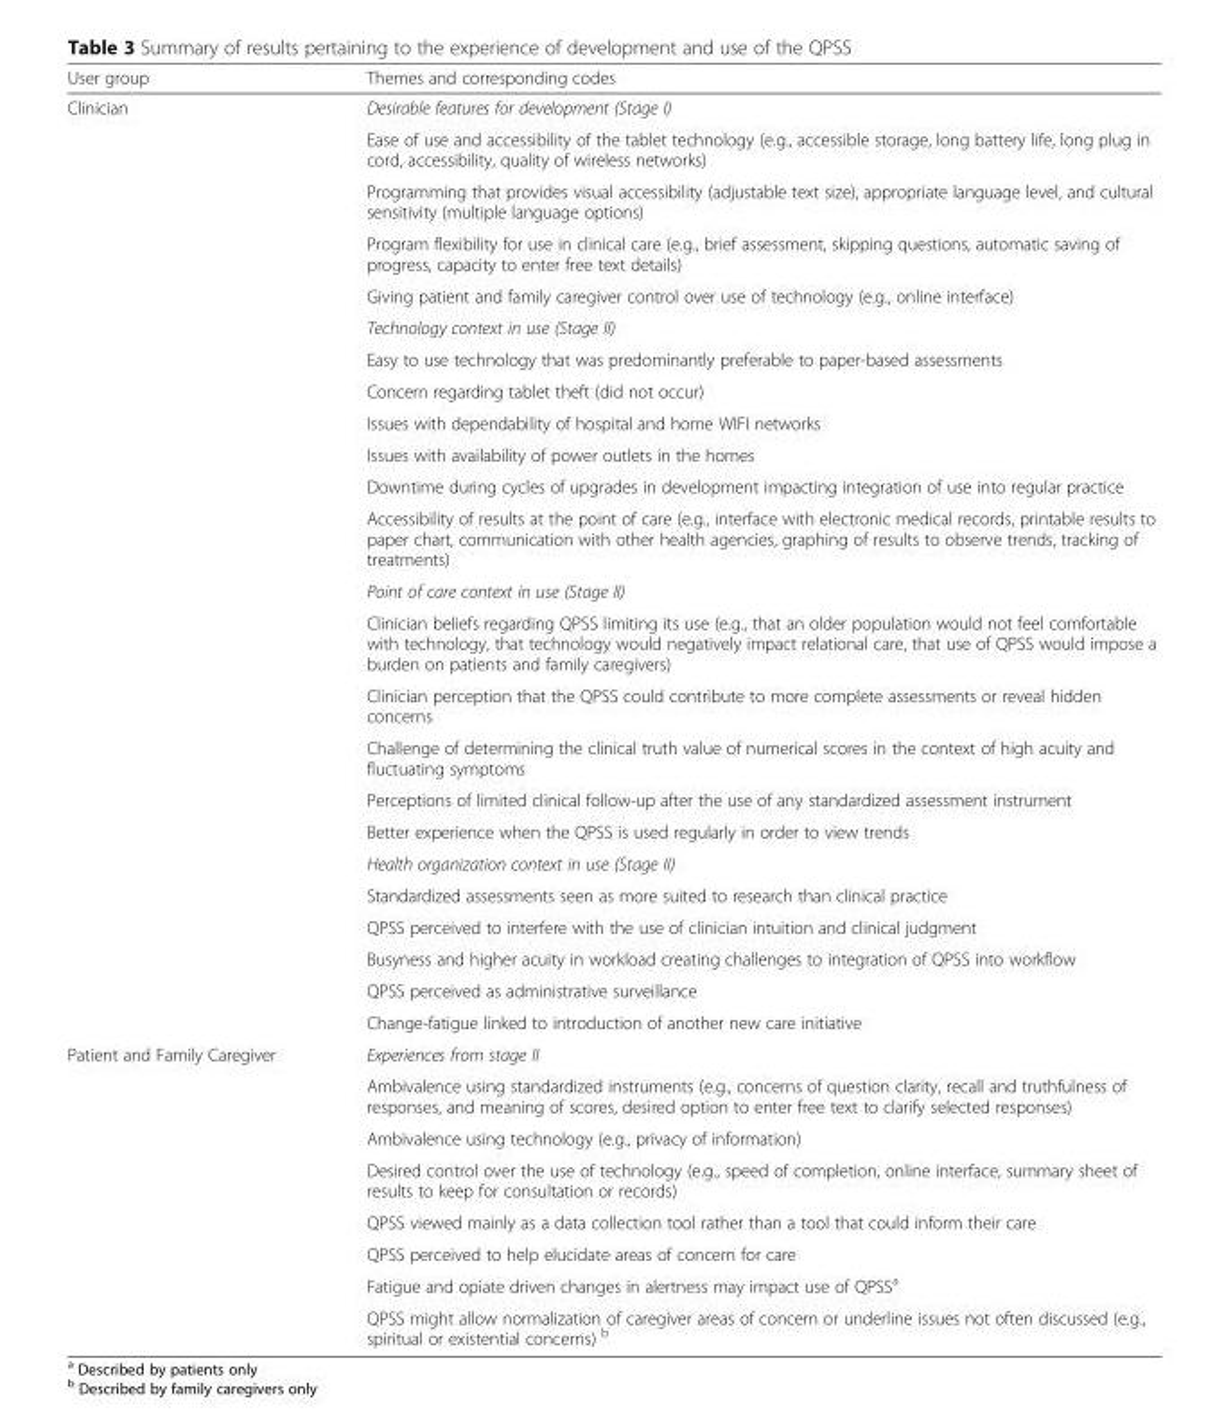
<table><thead><tr><td>User group</td><td>Themes and corresponding codes</td></tr></thead><tbody><tr><td rowspan="24">Clinician</td><td>Desirable features for development (Stage I)</td></tr><tr><td>Ease of use and accessibility of the tablet technology (e.g., accessible storage, long battery life, long plug in cord, accessibility, quality of wireless networks)</td></tr><tr><td>Programming that provides visual accessibility (adjustable text size), appropriate language level, and cultural sensitivity (multiple language options)</td></tr><tr><td>Program flexibility for use in clinical care (e.g., brief assessment, skipping questions, automatic saving of progress, capacity to enter free text details)</td></tr><tr><td>Giving patient and family caregiver control over use of technology (e.g., online interface)</td></tr><tr><td>Technology context in use (Stage II)</td></tr><tr><td>Easy to use technology that was predominantly preferable to paper-based assessments</td></tr><tr><td>Concern regarding tablet theft (did not occur)</td></tr><tr><td>Issues with dependability of hospital and home WIFI networks</td></tr><tr><td>Issues with availability of power outlets in the homes</td></tr><tr><td>Downtime during cycles of upgrades in development impacting integration of use into regular practice</td></tr><tr><td>Accessibility of results at the point of care (e.g., interface with electronic medical records, printable results to paper chart, communication with other health agencies, graphing of results to observe trends, tracking of treatments)</td></tr><tr><td>Point of care context in use (Stage II)</td></tr><tr><td>Clinician beliefs regarding QPSS limiting its use (e.g., that an older population would not feel comfortable with technology, that technology would negatively impact relational care, that use of QPSS would impose a burden on patients and family caregivers)</td></tr><tr><td>Clinician perception that the QPSS could contribute to more complete assessments or reveal hidden concerns</td></tr><tr><td>Challenge of determining the clinical truth value of numerical scores in the context of high acuity and fluctuating symptoms</td></tr><tr><td>Perceptions of limited clinical follow-up after the use of any standardized assessment instrument</td></tr><tr><td>Better experience when the QPSS is used regularly in order to view trends</td></tr><tr><td>Health organization context in use (Stage II)</td></tr><tr><td>Standardized assessments seen as more suited to research than clinical practice</td></tr><tr><td>QPSS perceived to interfere with the use of clinician intuition and clinical judgment</td></tr><tr><td>Busyness and higher acuity in workload creating challenges to integration of QPSS into workflow</td></tr><tr><td>QPSS perceived as administrative surveillance</td></tr><tr><td>Change-fatigue linked to introduction of another new care initiative</td></tr><tr><td rowspan="8">Patient and Family Caregiver</td><td>Experiences from stage II</td></tr><tr><td>Ambivalence using standardized instruments (e.g., concerns of question clarity, recall and truthfulness of responses, and meaning of scores, desired option to enter free text to clarify selected responses)</td></tr><tr><td>Ambivalence using technology (e.g., privacy of information)</td></tr><tr><td>Desired control over the use of technology (e.g., speed of completion, online interface, summary sheet of results to keep for consultation or records)</td></tr><tr><td>QPSS viewed mainly as a data collection tool rather than a tool that could inform their care</td></tr><tr><td>QPSS perceived to help elucidate areas of concern for care</td></tr><tr><td>Fatigue and opiate driven changes in alertness may impact use of QPSSa</td></tr><tr><td>QPSS might allow normalization of caregiver areas of concern or underline issues not often discussed (e.g., spiritual or existential concerns) b</td></tr></tbody></table>